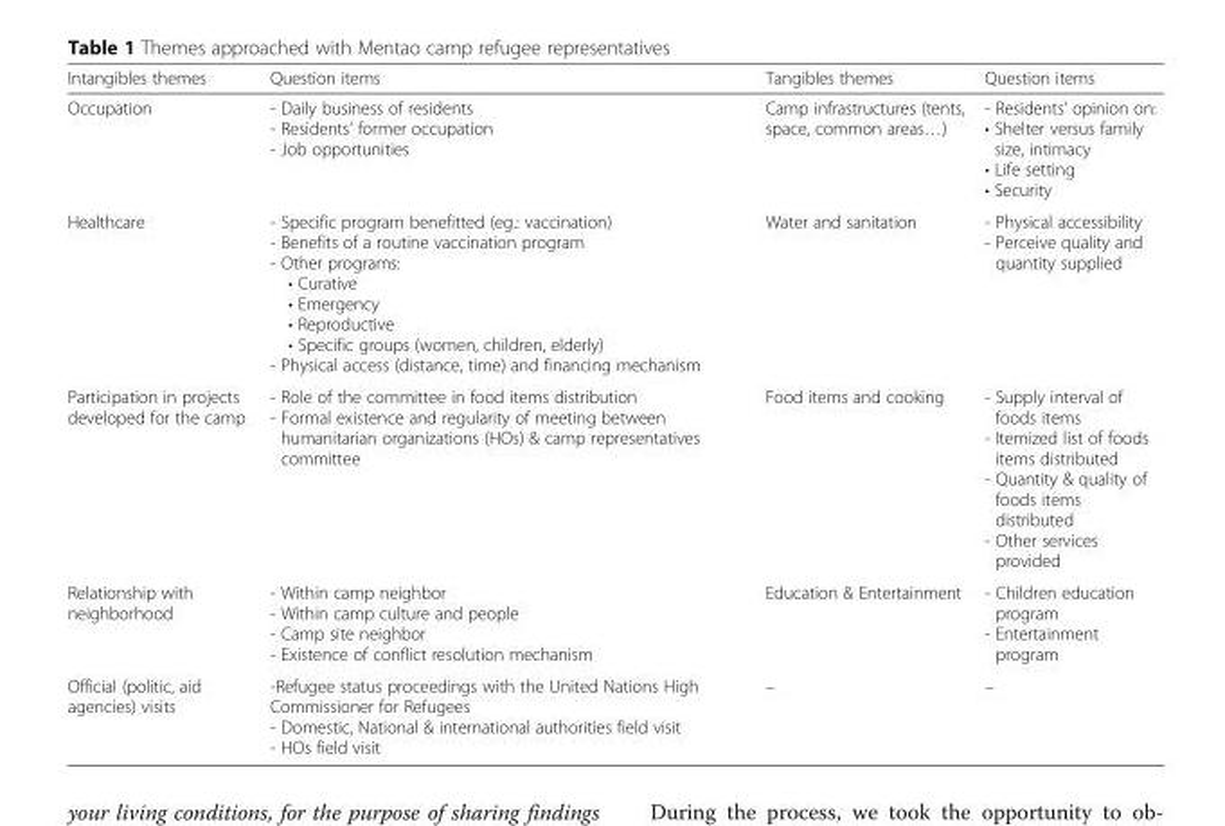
<table><thead><tr><td>Intangibles themes</td><td>Question items</td><td>Tangibles themes</td><td>Question items</td></tr></thead><tbody><tr><td>Occupation</td><td>- Daily business of residents - Residents’ former occupation - Job opportunities</td><td>Camp infrastructures (tents, space, common areas…)</td><td>- Residents’ opinion on: • Shelter versus family size, intimacy • Life setting • Security</td></tr><tr><td>Healthcare</td><td>- Specific program benefitted (eg.: vaccination) - Benefits of a routine vaccination program - Other programs: • Curative • Emergency • Reproductive • Specific groups (women, children, elderly) - Physical access (distance, time) and financing mechanism</td><td>Water and sanitation</td><td>- Physical accessibility - Perceive quality and quantity supplied</td></tr><tr><td>Participation in projects developed for the camp</td><td>- Role of the committee in food items distribution - Formal existence and regularity of meeting between humanitarian organizations (HOs) &amp; camp representatives committee</td><td>Food items and cooking</td><td>- Supply interval of foods items - Itemized list of foods items distributed - Quantity &amp; quality of foods items distributed - Other services provided</td></tr><tr><td>Relationship with neighborhood</td><td>- Within camp neighbor - Within camp culture and people - Camp site neighbor - Existence of conflict resolution mechanism</td><td>Education &amp; Entertainment</td><td>- Children education program - Entertainment program</td></tr><tr><td>Official (politic, aid agencies) visits</td><td>-Refugee status proceedings with the United Nations High Commissioner for Refugees - Domestic, National &amp; international authorities field visit - HOs field visit</td><td>–</td><td>–</td></tr></tbody></table>